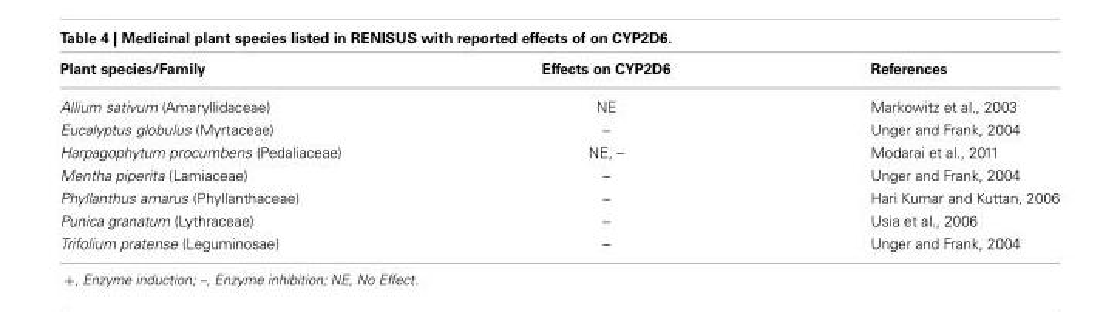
<table><thead><tr><td>Plant species/Family</td><td>Effects on CYP2D6</td><td>References</td></tr></thead><tbody><tr><td>Allium sativum (Amaryllidaceae)</td><td>NE</td><td>Markowitz et al., 2003</td></tr><tr><td>Eucalyptus globulus (Myrtaceae)</td><td>–</td><td>Unger and Frank, 2004</td></tr><tr><td>Harpagophytum procumbens (Pedaliaceae)</td><td>NE, –</td><td>Modarai et al., 2011</td></tr><tr><td>Mentha piperita (Lamiaceae)</td><td>–</td><td>Unger and Frank, 2004</td></tr><tr><td>Phyllanthus amarus (Phyllanthaceae)</td><td>–</td><td>Hari Kumar and Kuttan, 2006</td></tr><tr><td>Punica granatum (Lythraceae)</td><td>–</td><td>Usia et al., 2006</td></tr><tr><td>Trifolium pratense (Leguminosae)</td><td>–</td><td>Unger and Frank, 2004</td></tr></tbody></table>